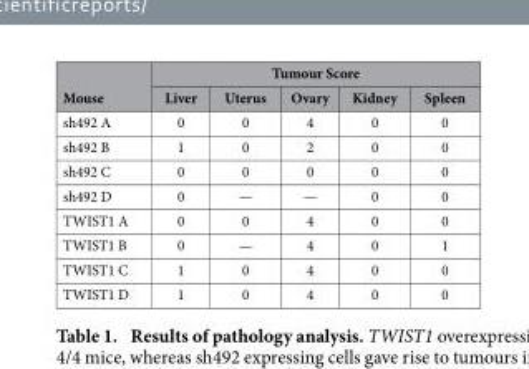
<table><thead><tr><td rowspan="2">Mouse</td><td colspan="5">Tumour Score</td></tr><tr><td>Liver</td><td>Uterus</td><td>Ovary</td><td>Kidney</td><td>Spleen</td></tr></thead><tbody><tr><td>sh492 A</td><td>0</td><td>0</td><td>4</td><td>0</td><td>0</td></tr><tr><td>sh492 B</td><td>1</td><td>0</td><td>2</td><td>0</td><td>0</td></tr><tr><td>sh492 C</td><td>0</td><td>0</td><td>0</td><td>0</td><td>0</td></tr><tr><td>sh492 D</td><td>0</td><td>—</td><td>—</td><td>0</td><td>0</td></tr><tr><td>TWIST1 A</td><td>0</td><td>0</td><td>4</td><td>0</td><td>0</td></tr><tr><td>TWIST1 B</td><td>0</td><td>—</td><td>4</td><td>0</td><td>1</td></tr><tr><td>TWIST1 C</td><td>1</td><td>0</td><td>4</td><td>0</td><td>0</td></tr><tr><td>TWIST1 D</td><td>1</td><td>0</td><td>4</td><td>0</td><td>0</td></tr></tbody></table>